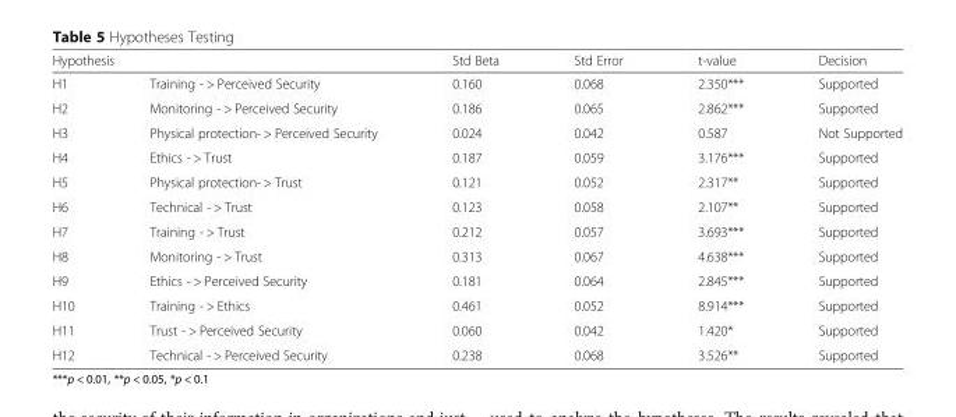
<table><thead><tr><td colspan="2">Hypothesis</td><td rowspan="2">Std Beta 0.160</td><td rowspan="2">Std Error 0.068</td><td rowspan="2">t-value 2.350***</td><td rowspan="2">Decision Supported</td></tr><tr><td>H1</td><td>Training - &gt; Perceived Security</td></tr></thead><tbody><tr><td>H2</td><td>Monitoring - &gt; Perceived Security</td><td>0.186</td><td>0.065</td><td>2.862***</td><td>Supported</td></tr><tr><td>H3</td><td>Physical protection- &gt; Perceived Security</td><td>0.024</td><td>0.042</td><td>0.587</td><td>Not Supported</td></tr><tr><td>H4</td><td>Ethics - &gt; Trust</td><td>0.187</td><td>0.059</td><td>3.176***</td><td>Supported</td></tr><tr><td>H5</td><td>Physical protection- &gt; Trust</td><td>0.121</td><td>0.052</td><td>2.317**</td><td>Supported</td></tr><tr><td>H6</td><td>Technical - &gt; Trust</td><td>0.123</td><td>0.058</td><td>2.107**</td><td>Supported</td></tr><tr><td>H7</td><td>Training - &gt; Trust</td><td>0.212</td><td>0.057</td><td>3.693***</td><td>Supported</td></tr><tr><td>H8</td><td>Monitoring - &gt; Trust</td><td>0.313</td><td>0.067</td><td>4.638***</td><td>Supported</td></tr><tr><td>H9</td><td>Ethics - &gt; Perceived Security</td><td>0.181</td><td>0.064</td><td>2.845***</td><td>Supported</td></tr><tr><td>H10</td><td>Training - &gt; Ethics</td><td>0.461</td><td>0.052</td><td>8.914***</td><td>Supported</td></tr><tr><td>H11</td><td>Trust - &gt; Perceived Security</td><td>0.060</td><td>0.042</td><td>1.420*</td><td>Supported</td></tr><tr><td>H12</td><td>Technical - &gt; Perceived Security</td><td>0.238</td><td>0.068</td><td>3.526**</td><td>Supported</td></tr></tbody></table>